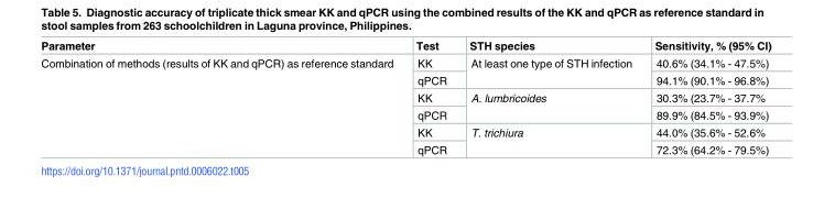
<table><thead><tr><td>Parameter</td><td>Test</td><td>STH species</td><td>Sensitivity, % (95% CI)</td></tr></thead><tbody><tr><td rowspan="6">Combination of methods (results of KK and qPCR) as reference standard</td><td>KK</td><td rowspan="2">At least one type of STH infection</td><td>40.6% (34.1% - 47.5%)</td></tr><tr><td>qPCR</td><td>94.1% (90.1% - 96.8%)</td></tr><tr><td>KK</td><td rowspan="2">A. lumbricoides</td><td>30.3% (23.7% - 37.7%</td></tr><tr><td>qPCR</td><td>89.9% (84.5% - 93.9%)</td></tr><tr><td>KK</td><td rowspan="2">T. trichiura</td><td>44.0% (35.6% - 52.6%</td></tr><tr><td>qPCR</td><td>72.3% (64.2% - 79.5%)</td></tr></tbody></table>